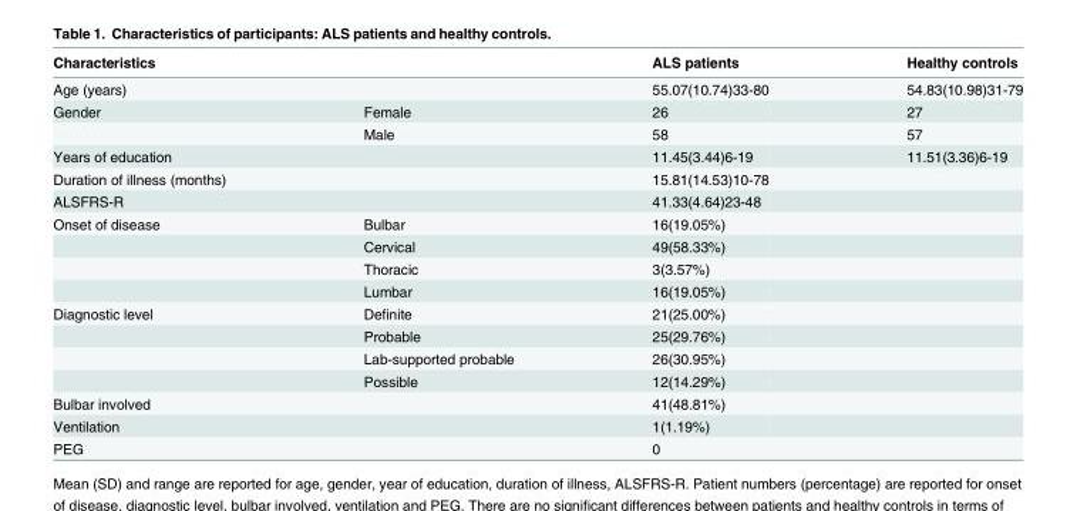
<table><thead><tr><td>Characteristics</td><td></td><td>ALS patients</td><td>Healthy controls</td></tr></thead><tbody><tr><td>Age (years)</td><td></td><td>55.07(10.74)33-80</td><td>54.83(10.98)31-79</td></tr><tr><td rowspan="2">Gender</td><td>Female</td><td>26</td><td>27</td></tr><tr><td>Male</td><td>58</td><td>57</td></tr><tr><td>Years of education</td><td></td><td>11.45(3.44)6-19</td><td>11.51(3.36)6-19</td></tr><tr><td>Duration of illness (months)</td><td></td><td>15.81(14.53)10-78</td><td></td></tr><tr><td>ALSFRS-R</td><td></td><td>41.33(4.64)23-48</td><td></td></tr><tr><td rowspan="4">Onset of disease</td><td>Bulbar</td><td>16(19.05%)</td><td></td></tr><tr><td>Cervical</td><td>49(58.33%)</td><td></td></tr><tr><td>Thoracic</td><td>3(3.57%)</td><td></td></tr><tr><td>Lumbar</td><td>16(19.05%)</td><td></td></tr><tr><td rowspan="4">Diagnostic level</td><td>Definite</td><td>21(25.00%)</td><td></td></tr><tr><td>Probable</td><td>25(29.76%)</td><td></td></tr><tr><td>Lab-supported probable</td><td>26(30.95%)</td><td></td></tr><tr><td>Possible</td><td>12(14.29%)</td><td></td></tr><tr><td>Bulbar involved</td><td></td><td>41(48.81%)</td><td></td></tr><tr><td>Ventilation</td><td></td><td>1(1.19%)</td><td></td></tr><tr><td>PEG</td><td></td><td>0</td><td></td></tr></tbody></table>